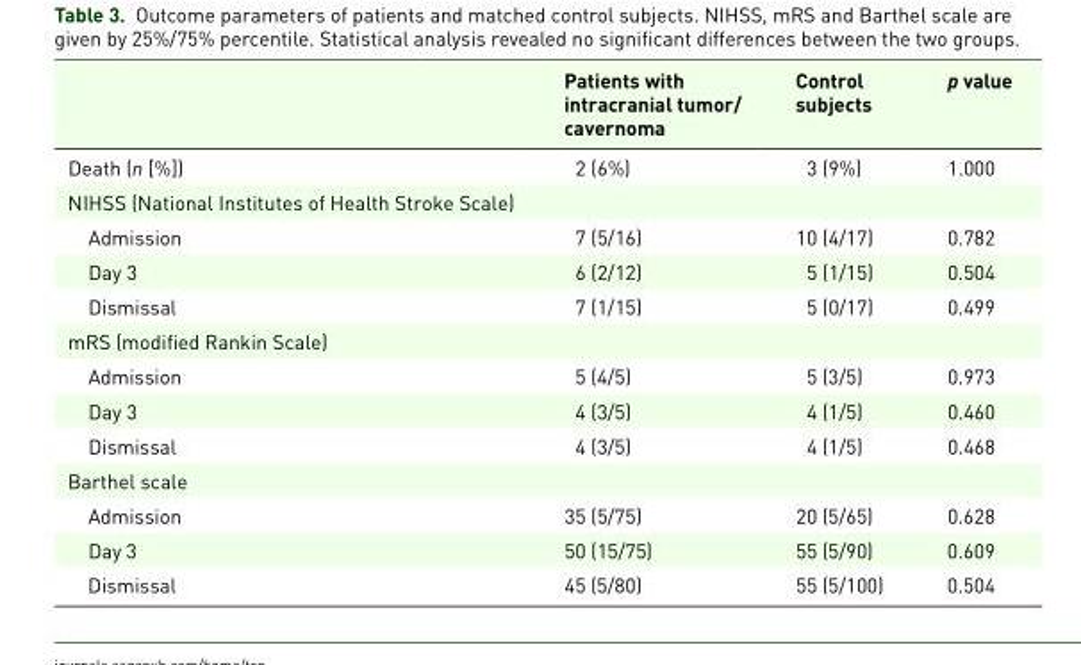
<table><thead><tr><td></td><td>Patients with intracranial tumor/ cavernoma</td><td>Control subjects</td><td>p value</td></tr></thead><tbody><tr><td>Death (n [%])</td><td>2 (6%)</td><td>3 (9%)</td><td>1.000</td></tr><tr><td colspan="4">NIHSS (National Institutes of Health Stroke Scale)</td></tr><tr><td>Admission</td><td>7 (5/16)</td><td>10 (4/17)</td><td>0.782</td></tr><tr><td>Day 3</td><td>6 (2/12)</td><td>5 (1/15)</td><td>0.504</td></tr><tr><td>Dismissal</td><td>7 (1/15)</td><td>5 (0/17)</td><td>0.499</td></tr><tr><td colspan="4">mRS (modified Rankin Scale)</td></tr><tr><td>Admission</td><td>5 (4/5)</td><td>5 (3/5)</td><td>0.973</td></tr><tr><td>Day 3</td><td>4 (3/5)</td><td>4 (1/5)</td><td>0.460</td></tr><tr><td>Dismissal</td><td>4 (3/5)</td><td>4 (1/5)</td><td>0.468</td></tr><tr><td colspan="4">Barthel scale</td></tr><tr><td>Admission</td><td>35 (5/75)</td><td>20 (5/65)</td><td>0.628</td></tr><tr><td>Day 3</td><td>50 (15/75)</td><td>55 (5/90)</td><td>0.609</td></tr><tr><td>Dismissal</td><td>45 (5/80)</td><td>55 (5/100)</td><td>0.504</td></tr></tbody></table>